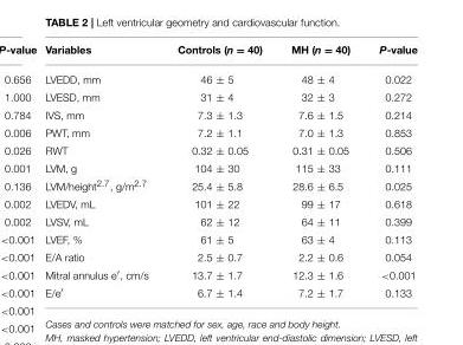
<table><thead><tr><td>Variables</td><td>Controls (n = 40)</td><td>MH (n = 40)</td><td>P-value</td></tr></thead><tbody><tr><td>LVEDD, mm</td><td>46 ± 5</td><td>48 ± 4</td><td>0.022</td></tr><tr><td>LVESD, mm</td><td>31 ± 4</td><td>32 ± 3</td><td>0.272</td></tr><tr><td>IVS, mm</td><td>7.3 ± 1.3</td><td>7.6 ± 1.5</td><td>0.214</td></tr><tr><td>PWT, mm</td><td>7.2 ± 1.1</td><td>7.0 ± 1.3</td><td>0.853</td></tr><tr><td>RWT</td><td>0.32 ± 0.05</td><td>0.31 ± 0.05</td><td>0.506</td></tr><tr><td>LVM, g</td><td>104 ± 30</td><td>115 ± 33</td><td>0.111</td></tr><tr><td>LVM/height<sup>2.7</sup>, g/m<sup>2.7</sup></td><td>25.4 ± 5.8</td><td>28.6 ± 6.5</td><td>0.025</td></tr><tr><td>LVEDV, mL</td><td>101 ± 22</td><td>99 ± 17</td><td>0.618</td></tr><tr><td>LVSV, mL</td><td>62 ± 12</td><td>64 ± 11</td><td>0.399</td></tr><tr><td>LVEF, %</td><td>61 ± 5</td><td>63 ± 4</td><td>0.113</td></tr><tr><td>E/A ratio</td><td>2.5 ± 0.7</td><td>2.2 ± 0.6</td><td>0.054</td></tr><tr><td>Mitral annulus e′, cm/s</td><td>13.7 ± 1.7</td><td>12.3 ± 1.6</td><td>&lt;0.001</td></tr><tr><td>E/e′</td><td>6.7 ± 1.4</td><td>7.2 ± 1.7</td><td>0.133</td></tr></tbody></table>